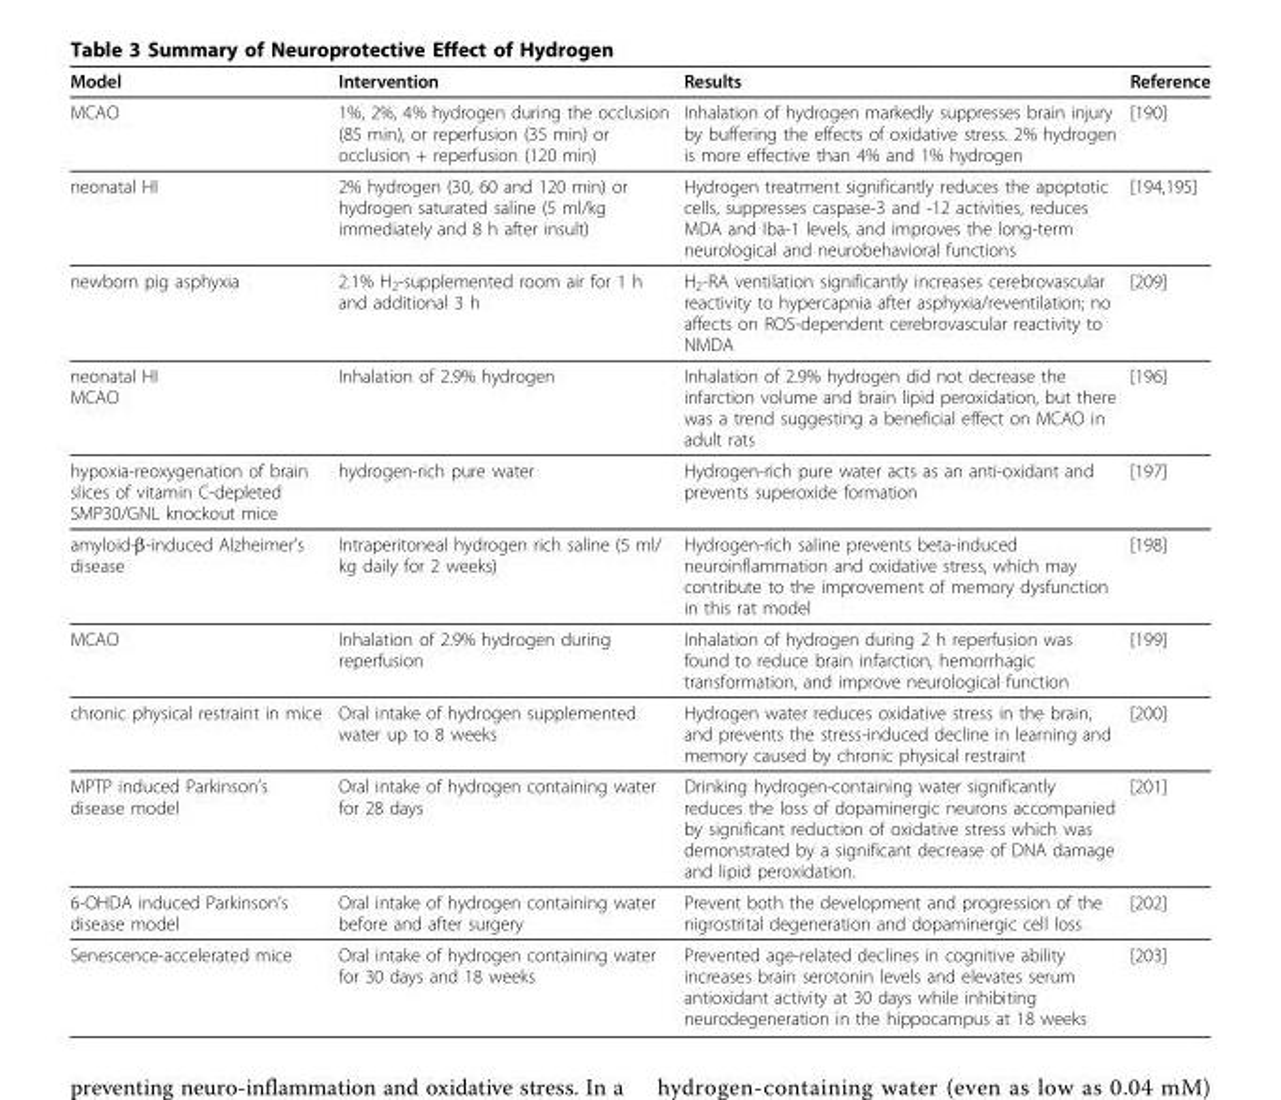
<table><thead><tr><td>Model</td><td>Intervention</td><td>Results</td><td>Reference</td></tr></thead><tbody><tr><td>MCAO</td><td>1%, 2%, 4% hydrogen during the occlusion (85 min), or reperfusion (35 min) or occlusion + reperfusion (120 min)</td><td>Inhalation of hydrogen markedly suppresses brain injury by buffering the effects of oxidative stress. 2% hydrogen is more effective than 4% and 1% hydrogen</td><td>[190]</td></tr><tr><td>neonatal HI</td><td>2% hydrogen (30, 60 and 120 min) or hydrogen saturated saline (5 ml/kg immediately and 8 h after insult)</td><td>Hydrogen treatment significantly reduces the apoptotic cells, suppresses caspase-3 and -12 activities, reduces MDA and Iba-1 levels, and improves the long-term neurological and neurobehavioral functions</td><td>[194,195]</td></tr><tr><td>newborn pig asphyxia</td><td>2.1% H<sub>2</sub>-supplemented room air for 1 h and additional 3 h</td><td>H<sub>2</sub>-RA ventilation significantly increases cerebrovascular reactivity to hypercapnia after asphyxia/reventilation; no affects on ROS-dependent cerebrovascular reactivity to NMDA</td><td>[209]</td></tr><tr><td>neonatal HI MCAO</td><td>Inhalation of 2.9% hydrogen</td><td>Inhalation of 2.9% hydrogen did not decrease the infarction volume and brain lipid peroxidation, but there was a trend suggesting a beneficial effect on MCAO in adult rats</td><td>[196]</td></tr><tr><td>hypoxia-reoxygenation of brain slices of vitamin C-depleted SMP30/GNL knockout mice</td><td>hydrogen-rich pure water</td><td>Hydrogen-rich pure water acts as an anti-oxidant and prevents superoxide formation</td><td>[197]</td></tr><tr><td>amyloid-β-induced Alzheimer’s disease</td><td>Intraperitoneal hydrogen rich saline (5 ml/ kg daily for 2 weeks)</td><td>Hydrogen-rich saline prevents beta-induced neuroinflammation and oxidative stress, which may contribute to the improvement of memory dysfunction in this rat model</td><td>[198]</td></tr><tr><td>MCAO</td><td>Inhalation of 2.9% hydrogen during reperfusion</td><td>Inhalation of hydrogen during 2 h reperfusion was found to reduce brain infarction, hemorrhagic transformation, and improve neurological function</td><td>[199]</td></tr><tr><td>chronic physical restraint in mice</td><td>Oral intake of hydrogen supplemented water up to 8 weeks</td><td>Hydrogen water reduces oxidative stress in the brain, and prevents the stress-induced decline in learning and memory caused by chronic physical restraint</td><td>[200]</td></tr><tr><td>MPTP induced Parkinson’s disease model</td><td>Oral intake of hydrogen containing water for 28 days</td><td>Drinking hydrogen-containing water significantly reduces the loss of dopaminergic neurons accompanied by significant reduction of oxidative stress which was demonstrated by a significant decrease of DNA damage and lipid peroxidation.</td><td>[201]</td></tr><tr><td>6-OHDA induced Parkinson’s disease model</td><td>Oral intake of hydrogen containing water before and after surgery</td><td>Prevent both the development and progression of the nigrostrital degeneration and dopaminergic cell loss</td><td>[202]</td></tr><tr><td>Senescence-accelerated mice</td><td>Oral intake of hydrogen containing water for 30 days and 18 weeks</td><td>Prevented age-related declines in cognitive ability increases brain serotonin levels and elevates serum antioxidant activity at 30 days while inhibiting neurodegeneration in the hippocampus at 18 weeks</td><td>[203]</td></tr></tbody></table>